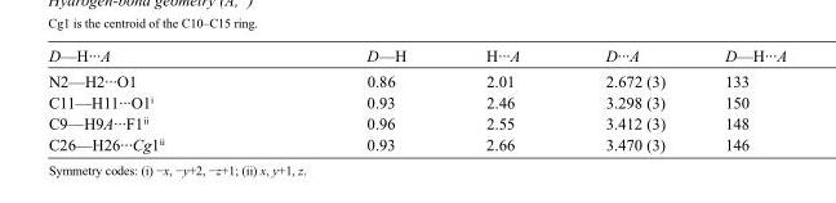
<table><tbody><tr><td>D—H···A</td><td>D—H</td><td>H···A</td><td>D···A</td><td>D—H···A</td></tr><tr><td>N2—H2···O1</td><td>0.86</td><td>2.01</td><td>2.672 (3)</td><td>133</td></tr><tr><td>C11—H11···O1<sup>i</sup></td><td>0.93</td><td>2.46</td><td>3.298 (3)</td><td>150</td></tr><tr><td>C9—H9A···F1<sup>ii</sup></td><td>0.96</td><td>2.55</td><td>3.412 (3)</td><td>148</td></tr><tr><td>C26—H26···Cg1<sup>ii</sup></td><td>0.93</td><td>2.66</td><td>3.470 (3)</td><td>146</td></tr></tbody></table>